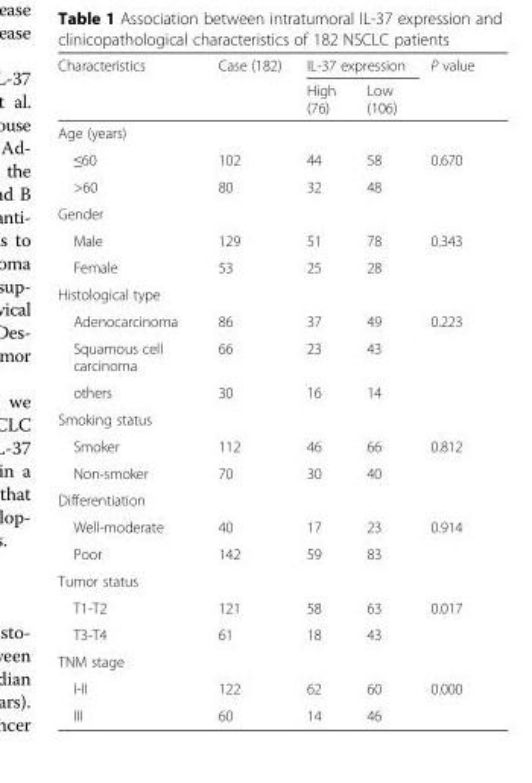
<table><thead><tr><td rowspan="2">Characteristics</td><td rowspan="2">Case (182)</td><td colspan="2">IL-37 expression</td><td rowspan="2">P value</td></tr><tr><td>High (76)</td><td>Low (106)</td></tr></thead><tbody><tr><td colspan="5">Age (years)</td></tr><tr><td>≤60</td><td>102</td><td>44</td><td>58</td><td rowspan="2">0.670</td></tr><tr><td>&gt;60</td><td>80</td><td>32</td><td>48</td></tr><tr><td colspan="5">Gender</td></tr><tr><td>Male</td><td>129</td><td>51</td><td>78</td><td rowspan="2">0.343</td></tr><tr><td>Female</td><td>53</td><td>25</td><td>28</td></tr><tr><td colspan="5">Histological type</td></tr><tr><td>Adenocarcinoma</td><td>86</td><td>37</td><td>49</td><td rowspan="2">0.223</td></tr><tr><td>Squamous cell carcinoma</td><td>66</td><td>23</td><td>43</td></tr><tr><td>others</td><td>30</td><td>16</td><td>14</td><td></td></tr><tr><td colspan="5">Smoking status</td></tr><tr><td>Smoker</td><td>112</td><td>46</td><td>66</td><td rowspan="2">0.812</td></tr><tr><td>Non-smoker</td><td>70</td><td>30</td><td>40</td></tr><tr><td colspan="5">Differentiation</td></tr><tr><td>Well-moderate</td><td>40</td><td>17</td><td>23</td><td rowspan="2">0.914</td></tr><tr><td>Poor</td><td>142</td><td>59</td><td>83</td></tr><tr><td colspan="5">Tumor status</td></tr><tr><td>T1-T2</td><td>121</td><td>58</td><td>63</td><td rowspan="2">0.017</td></tr><tr><td>T3-T4</td><td>61</td><td>18</td><td>43</td></tr><tr><td colspan="5">TNM stage</td></tr><tr><td>I-II</td><td>122</td><td>62</td><td>60</td><td rowspan="2">0.000</td></tr><tr><td>III</td><td>60</td><td>14</td><td>46</td></tr></tbody></table>